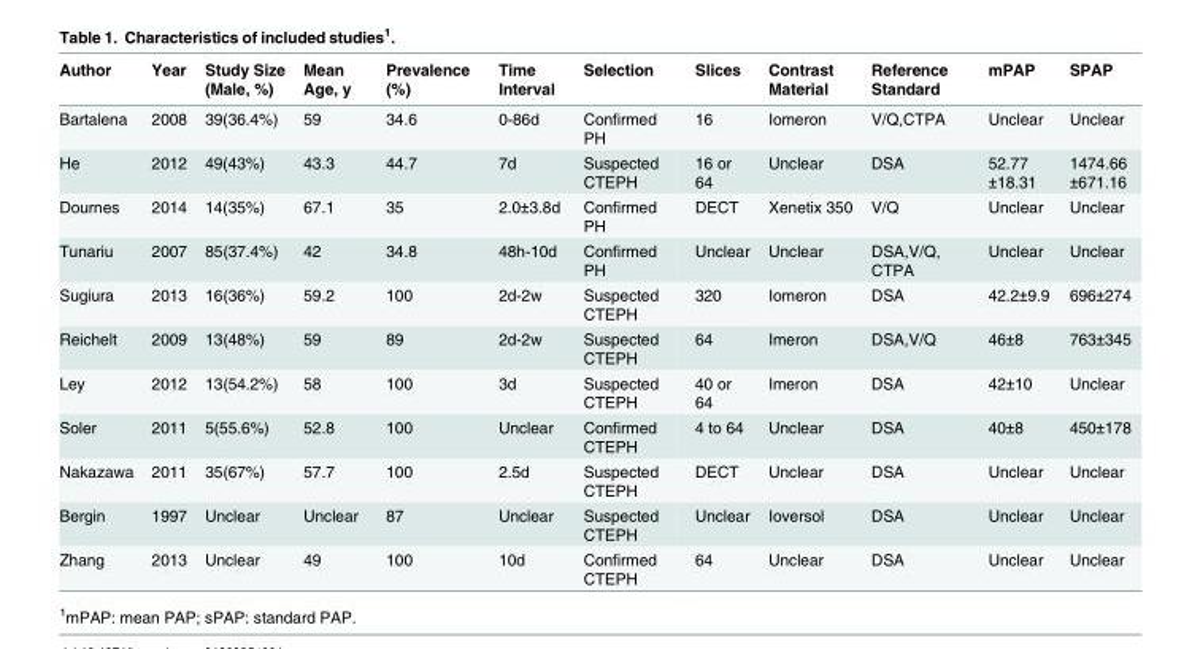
<table><thead><tr><td>Author</td><td>Year</td><td>Study Size (Male, %)</td><td>Mean Age, y</td><td>Prevalence (%)</td><td>Time Interval</td><td>Selection</td><td>Slices</td><td>Contrast Material</td><td>Reference Standard</td><td>mPAP</td><td>SPAP</td></tr></thead><tbody><tr><td>Bartalena</td><td>2008</td><td>39(36.4%)</td><td>59</td><td>34.6</td><td>0-86d</td><td>Confirmed PH</td><td>16</td><td>Iomeron</td><td>V/Q,CTPA</td><td>Unclear</td><td>Unclear</td></tr><tr><td>He</td><td>2012</td><td>49(43%)</td><td>43.3</td><td>44.7</td><td>7d</td><td>Suspected CTEPH</td><td>16 or 64</td><td>Unclear</td><td>DSA</td><td>52.77 ±18.31</td><td>1474.66 ±671.16</td></tr><tr><td>Dournes</td><td>2014</td><td>14(35%)</td><td>67.1</td><td>35</td><td>2.0±3.8d</td><td>Confirmed PH</td><td>DECT</td><td>Xenetix 350</td><td>V/Q</td><td>Unclear</td><td>Unclear</td></tr><tr><td>Tunariu</td><td>2007</td><td>85(37.4%)</td><td>42</td><td>34.8</td><td>48h-10d</td><td>Confirmed PH</td><td>Unclear</td><td>Unclear</td><td>DSA,V/Q, CTPA</td><td>Unclear</td><td>Unclear</td></tr><tr><td>Sugiura</td><td>2013</td><td>16(36%)</td><td>59.2</td><td>100</td><td>2d-2w</td><td>Suspected CTEPH</td><td>320</td><td>Iomeron</td><td>DSA</td><td>42.2±9.9</td><td>696±274</td></tr><tr><td>Reichelt</td><td>2009</td><td>13(48%)</td><td>59</td><td>89</td><td>2d-2w</td><td>Suspected CTEPH</td><td>64</td><td>Imeron</td><td>DSA,V/Q</td><td>46±8</td><td>763±345</td></tr><tr><td>Ley</td><td>2012</td><td>13(54.2%)</td><td>58</td><td>100</td><td>3d</td><td>Suspected CTEPH</td><td>40 or 64</td><td>Imeron</td><td>DSA</td><td>42±10</td><td>Unclear</td></tr><tr><td>Soler</td><td>2011</td><td>5(55.6%)</td><td>52.8</td><td>100</td><td>Unclear</td><td>Confirmed CTEPH</td><td>4 to 64</td><td>Unclear</td><td>DSA</td><td>40±8</td><td>450±178</td></tr><tr><td>Nakazawa</td><td>2011</td><td>35(67%)</td><td>57.7</td><td>100</td><td>2.5d</td><td>Suspected CTEPH</td><td>DECT</td><td>Unclear</td><td>DSA</td><td>Unclear</td><td>Unclear</td></tr><tr><td>Bergin</td><td>1997</td><td>Unclear</td><td>Unclear</td><td>87</td><td>Unclear</td><td>Suspected CTEPH</td><td>Unclear</td><td>Ioversol</td><td>DSA</td><td>Unclear</td><td>Unclear</td></tr><tr><td>Zhang</td><td>2013</td><td>Unclear</td><td>49</td><td>100</td><td>10d</td><td>Confirmed CTEPH</td><td>64</td><td>Unclear</td><td>DSA</td><td>Unclear</td><td>Unclear</td></tr></tbody></table>